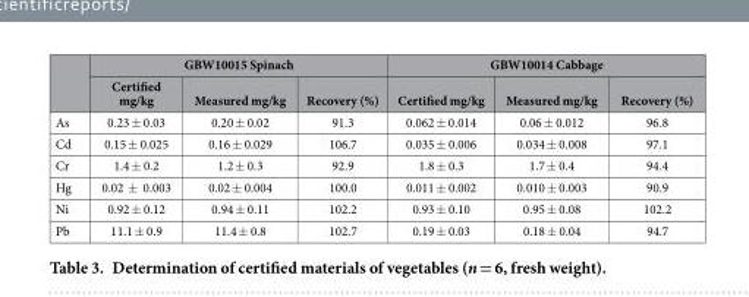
<table><thead><tr><td rowspan="2"></td><td colspan="3">GBW10015 Spinach</td><td colspan="3">GBW10014 Cabbage</td></tr><tr><td>Certified mg/kg</td><td>Measured mg/kg</td><td>Recovery (%)</td><td>Certified mg/kg</td><td>Measured mg/kg</td><td>Recovery (%)</td></tr></thead><tbody><tr><td>As</td><td>0.23 ± 0.03</td><td>0.20 ± 0.02</td><td>91.3</td><td>0.062 ± 0.014</td><td>0.06 ± 0.012</td><td>96.8</td></tr><tr><td>Cd</td><td>0.15 ± 0.025</td><td>0.16 ± 0.029</td><td>106.7</td><td>0.035 ± 0.006</td><td>0.034 ± 0.008</td><td>97.1</td></tr><tr><td>Cr</td><td>1.4 ± 0.2</td><td>1.2 ± 0.3</td><td>92.9</td><td>1.8 ± 0.3</td><td>1.7 ± 0.4</td><td>94.4</td></tr><tr><td>Hg</td><td>0.02 ± 0.003</td><td>0.02 ± 0.004</td><td>100.0</td><td>0.011 ± 0.002</td><td>0.010 ± 0.003</td><td>90.9</td></tr><tr><td>Ni</td><td>0.92 ± 0.12</td><td>0.94 ± 0.11</td><td>102.2</td><td>0.93 ± 0.10</td><td>0.95 ± 0.08</td><td>102.2</td></tr><tr><td>Pb</td><td>11.1 ± 0.9</td><td>11.4 ± 0.8</td><td>102.7</td><td>0.19 ± 0.03</td><td>0.18 ± 0.04</td><td>94.7</td></tr></tbody></table>